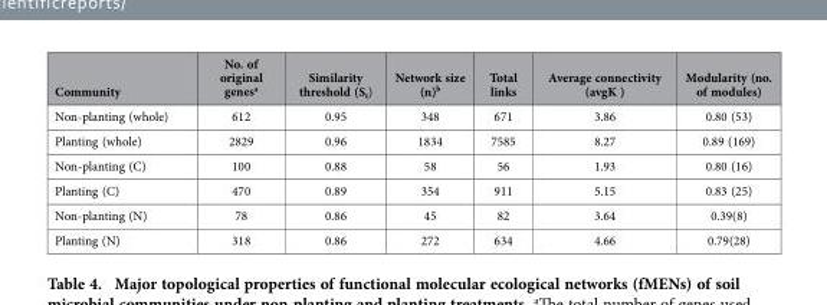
<table><thead><tr><td>Community</td><td>No. of original genes<sup>a</sup></td><td>Similarity threshold (S<sub>t</sub>)</td><td>Network size (n)<sup>b</sup></td><td>Total links</td><td>Average connectivity (avgK )</td><td>Modularity (no. of modules)</td></tr></thead><tbody><tr><td>Non-planting (whole)</td><td>612</td><td>0.95</td><td>348</td><td>671</td><td>3.86</td><td>0.80 (53)</td></tr><tr><td>Planting (whole)</td><td>2829</td><td>0.96</td><td>1834</td><td>7585</td><td>8.27</td><td>0.89 (169)</td></tr><tr><td>Non-planting (C)</td><td>100</td><td>0.88</td><td>58</td><td>56</td><td>1.93</td><td>0.80 (16)</td></tr><tr><td>Planting (C)</td><td>470</td><td>0.89</td><td>354</td><td>911</td><td>5.15</td><td>0.83 (25)</td></tr><tr><td>Non-planting (N)</td><td>78</td><td>0.86</td><td>45</td><td>82</td><td>3.64</td><td>0.39(8)</td></tr><tr><td>Planting (N)</td><td>318</td><td>0.86</td><td>272</td><td>634</td><td>4.66</td><td>0.79(28)</td></tr></tbody></table>